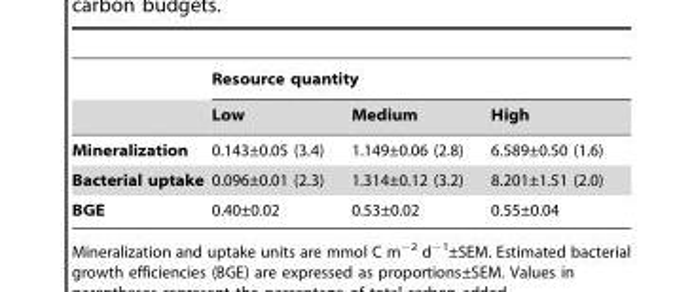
<table><thead><tr><td rowspan="2"></td><td colspan="3">Resource quantity</td></tr><tr><td>Low</td><td>Medium</td><td>High</td></tr></thead><tbody><tr><td>Mineralization</td><td>0.143±0.05 (3.4)</td><td>1.149±0.06 (2.8)</td><td>6.589±0.50 (1.6)</td></tr><tr><td>Bacterial uptake</td><td>0.096±0.01 (2.3)</td><td>1.314±0.12 (3.2)</td><td>8.201±1.51 (2.0)</td></tr><tr><td>BGE</td><td>0.40±0.02</td><td>0.53±0.02</td><td>0.55±0.04</td></tr></tbody></table>